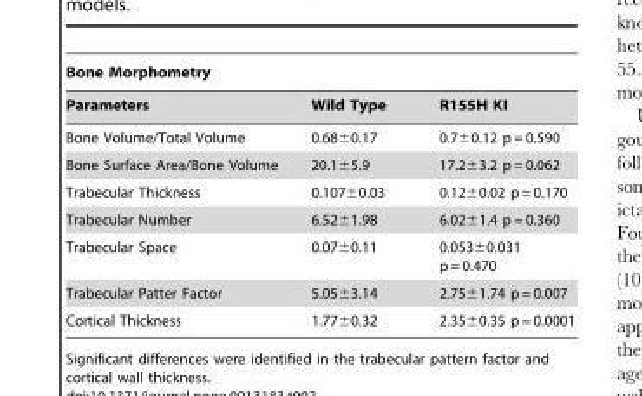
<table><thead><tr><td colspan="3">Bone Morphometry</td></tr><tr><td>Parameters</td><td>Wild Type</td><td>R155H KI</td></tr></thead><tbody><tr><td>Bone Volume/Total Volume</td><td>0.68±0.17</td><td>0.7±0.12 p = 0.590</td></tr><tr><td>Bone Surface Area/Bone Volume</td><td>20.1±5.9</td><td>17.2±3.2 p = 0.062</td></tr><tr><td>Trabecular Thickness</td><td>0.107±0.03</td><td>0.12±0.02 p = 0.170</td></tr><tr><td>Trabecular Number</td><td>6.52±1.98</td><td>6.02±1.4 p = 0.360</td></tr><tr><td>Trabecular Space</td><td>0.07±0.11</td><td>0.053±0.031 p = 0.470</td></tr><tr><td>Trabecular Patter Factor</td><td>5.05±3.14</td><td>2.75±1.74 p = 0.007</td></tr><tr><td>Cortical Thickness</td><td>1.77±0.32</td><td>2.35±0.35 p = 0.0001</td></tr></tbody></table>